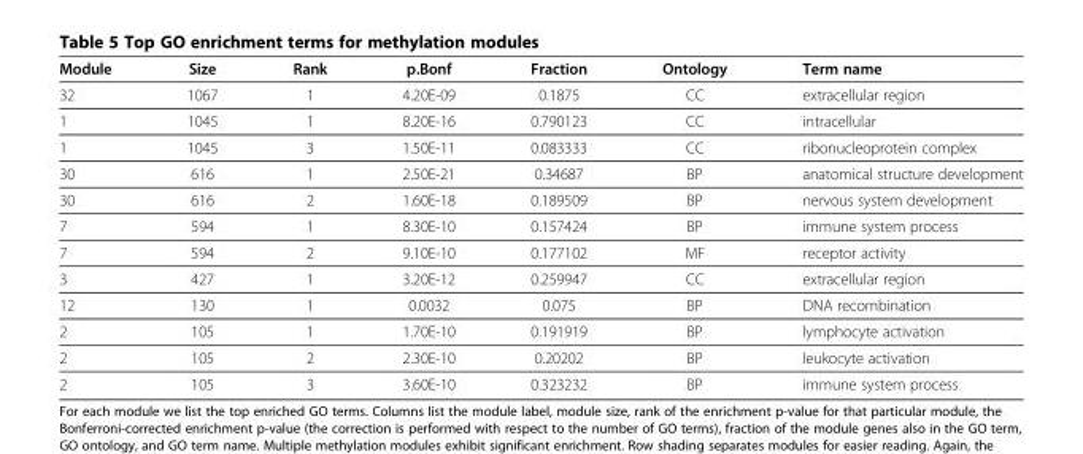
<table><thead><tr><td>Module</td><td>Size</td><td>Rank</td><td>p.Bonf</td><td>Fraction</td><td>Ontology</td><td>Term name</td></tr></thead><tbody><tr><td>32</td><td>1067</td><td>1</td><td>4.20E-09</td><td>0.1875</td><td>CC</td><td>extracellular region</td></tr><tr><td>1</td><td>1045</td><td>1</td><td>8.20E-16</td><td>0.790123</td><td>CC</td><td>intracellular</td></tr><tr><td>1</td><td>1045</td><td>3</td><td>1.50E-11</td><td>0.083333</td><td>CC</td><td>ribonucleoprotein complex</td></tr><tr><td>30</td><td>616</td><td>1</td><td>2.50E-21</td><td>0.34687</td><td>BP</td><td>anatomical structure development</td></tr><tr><td>30</td><td>616</td><td>2</td><td>1.60E-18</td><td>0.189509</td><td>BP</td><td>nervous system development</td></tr><tr><td>7</td><td>594</td><td>1</td><td>8.30E-10</td><td>0.157424</td><td>BP</td><td>immune system process</td></tr><tr><td>7</td><td>594</td><td>2</td><td>9.10E-10</td><td>0.177102</td><td>MF</td><td>receptor activity</td></tr><tr><td>3</td><td>427</td><td>1</td><td>3.20E-12</td><td>0.259947</td><td>CC</td><td>extracellular region</td></tr><tr><td>12</td><td>130</td><td>1</td><td>0.0032</td><td>0.075</td><td>BP</td><td>DNA recombination</td></tr><tr><td>2</td><td>105</td><td>1</td><td>1.70E-10</td><td>0.191919</td><td>BP</td><td>lymphocyte activation</td></tr><tr><td>2</td><td>105</td><td>2</td><td>2.30E-10</td><td>0.20202</td><td>BP</td><td>leukocyte activation</td></tr><tr><td>2</td><td>105</td><td>3</td><td>3.60E-10</td><td>0.323232</td><td>BP</td><td>immune system process</td></tr></tbody></table>